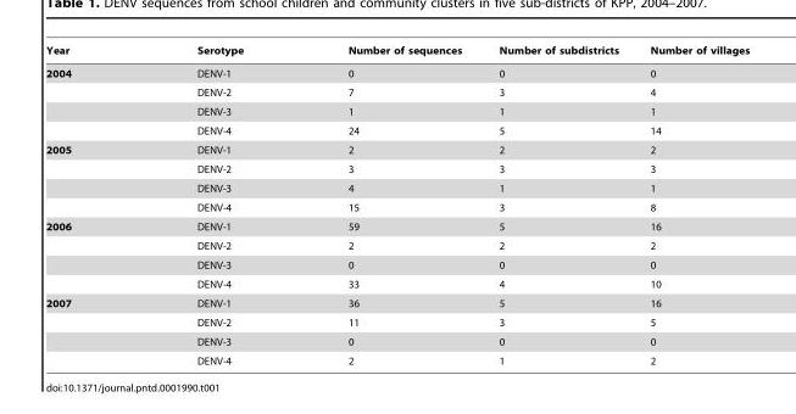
<table><thead><tr><td>Year</td><td>Serotype</td><td>Number of sequences</td><td>Number of subdistricts</td><td>Number of villages</td></tr></thead><tbody><tr><td rowspan="4">2004</td><td>DENV-1</td><td>0</td><td>0</td><td>0</td></tr><tr><td>DENV-2</td><td>7</td><td>3</td><td>4</td></tr><tr><td>DENV-3</td><td>1</td><td>1</td><td>1</td></tr><tr><td>DENV-4</td><td>24</td><td>5</td><td>14</td></tr><tr><td rowspan="4">2005</td><td>DENV-1</td><td>2</td><td>2</td><td>2</td></tr><tr><td>DENV-2</td><td>3</td><td>3</td><td>3</td></tr><tr><td>DENV-3</td><td>4</td><td>1</td><td>1</td></tr><tr><td>DENV-4</td><td>15</td><td>3</td><td>8</td></tr><tr><td rowspan="4">2006</td><td>DENV-1</td><td>59</td><td>5</td><td>16</td></tr><tr><td>DENV-2</td><td>2</td><td>2</td><td>2</td></tr><tr><td>DENV-3</td><td>0</td><td>0</td><td>0</td></tr><tr><td>DENV-4</td><td>33</td><td>4</td><td>10</td></tr><tr><td rowspan="4">2007</td><td>DENV-1</td><td>36</td><td>5</td><td>16</td></tr><tr><td>DENV-2</td><td>11</td><td>3</td><td>5</td></tr><tr><td>DENV-3</td><td>0</td><td>0</td><td>0</td></tr><tr><td>DENV-4</td><td>2</td><td>1</td><td>2</td></tr></tbody></table>